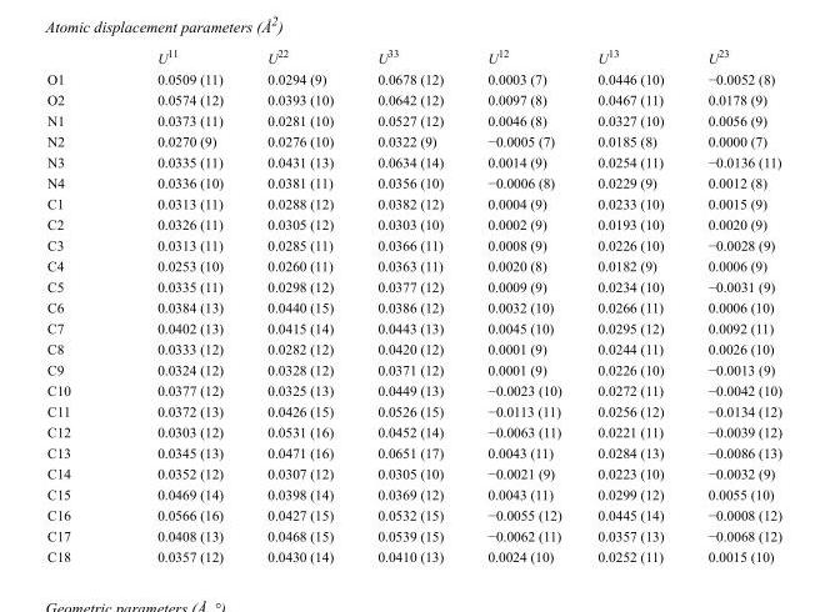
<table><thead><tr><td></td><td>U<sup>11</sup></td><td>U<sup>22</sup></td><td>U<sup>33</sup></td><td>U<sup>12</sup></td><td>U<sup>13</sup></td><td>U<sup>23</sup></td></tr></thead><tbody><tr><td>O1</td><td>0.0509 (11)</td><td>0.0294 (9)</td><td>0.0678 (12)</td><td>0.0003 (7)</td><td>0.0446 (10)</td><td>−0.0052 (8)</td></tr><tr><td>O2</td><td>0.0574 (12)</td><td>0.0393 (10)</td><td>0.0642 (12)</td><td>0.0097 (8)</td><td>0.0467 (11)</td><td>0.0178 (9)</td></tr><tr><td>N1</td><td>0.0373 (11)</td><td>0.0281 (10)</td><td>0.0527 (12)</td><td>0.0046 (8)</td><td>0.0327 (10)</td><td>0.0056 (9)</td></tr><tr><td>N2</td><td>0.0270 (9)</td><td>0.0276 (10)</td><td>0.0322 (9)</td><td>−0.0005 (7)</td><td>0.0185 (8)</td><td>0.0000 (7)</td></tr><tr><td>N3</td><td>0.0335 (11)</td><td>0.0431 (13)</td><td>0.0634 (14)</td><td>0.0014 (9)</td><td>0.0254 (11)</td><td>−0.0136 (11)</td></tr><tr><td>N4</td><td>0.0336 (10)</td><td>0.0381 (11)</td><td>0.0356 (10)</td><td>−0.0006 (8)</td><td>0.0229 (9)</td><td>0.0012 (8)</td></tr><tr><td>C1</td><td>0.0313 (11)</td><td>0.0288 (12)</td><td>0.0382 (12)</td><td>0.0004 (9)</td><td>0.0233 (10)</td><td>0.0015 (9)</td></tr><tr><td>C2</td><td>0.0326 (11)</td><td>0.0305 (12)</td><td>0.0303 (10)</td><td>0.0002 (9)</td><td>0.0193 (10)</td><td>0.0020 (9)</td></tr><tr><td>C3</td><td>0.0313 (11)</td><td>0.0285 (11)</td><td>0.0366 (11)</td><td>0.0008 (9)</td><td>0.0226 (10)</td><td>−0.0028 (9)</td></tr><tr><td>C4</td><td>0.0253 (10)</td><td>0.0260 (11)</td><td>0.0363 (11)</td><td>0.0020 (8)</td><td>0.0182 (9)</td><td>0.0006 (9)</td></tr><tr><td>C5</td><td>0.0335 (11)</td><td>0.0298 (12)</td><td>0.0377 (12)</td><td>0.0009 (9)</td><td>0.0234 (10)</td><td>−0.0031 (9)</td></tr><tr><td>C6</td><td>0.0384 (13)</td><td>0.0440 (15)</td><td>0.0386 (12)</td><td>0.0032 (10)</td><td>0.0266 (11)</td><td>0.0006 (10)</td></tr><tr><td>C7</td><td>0.0402 (13)</td><td>0.0415 (14)</td><td>0.0443 (13)</td><td>0.0045 (10)</td><td>0.0295 (12)</td><td>0.0092 (11)</td></tr><tr><td>C8</td><td>0.0333 (12)</td><td>0.0282 (12)</td><td>0.0420 (12)</td><td>0.0001 (9)</td><td>0.0244 (11)</td><td>0.0026 (10)</td></tr><tr><td>C9</td><td>0.0324 (12)</td><td>0.0328 (12)</td><td>0.0371 (12)</td><td>0.0001 (9)</td><td>0.0226 (10)</td><td>−0.0013 (9)</td></tr><tr><td>C10</td><td>0.0377 (12)</td><td>0.0325 (13)</td><td>0.0449 (13)</td><td>−0.0023 (10)</td><td>0.0272 (11)</td><td>−0.0042 (10)</td></tr><tr><td>C11</td><td>0.0372 (13)</td><td>0.0426 (15)</td><td>0.0526 (15)</td><td>−0.0113 (11)</td><td>0.0256 (12)</td><td>−0.0134 (12)</td></tr><tr><td>C12</td><td>0.0303 (12)</td><td>0.0531 (16)</td><td>0.0452 (14)</td><td>−0.0063 (11)</td><td>0.0221 (11)</td><td>−0.0039 (12)</td></tr><tr><td>C13</td><td>0.0345 (13)</td><td>0.0471 (16)</td><td>0.0651 (17)</td><td>0.0043 (11)</td><td>0.0284 (13)</td><td>−0.0086 (13)</td></tr><tr><td>C14</td><td>0.0352 (12)</td><td>0.0307 (12)</td><td>0.0305 (10)</td><td>−0.0021 (9)</td><td>0.0223 (10)</td><td>−0.0032 (9)</td></tr><tr><td>C15</td><td>0.0469 (14)</td><td>0.0398 (14)</td><td>0.0369 (12)</td><td>0.0043 (11)</td><td>0.0299 (12)</td><td>0.0055 (10)</td></tr><tr><td>C16</td><td>0.0566 (16)</td><td>0.0427 (15)</td><td>0.0532 (15)</td><td>−0.0055 (12)</td><td>0.0445 (14)</td><td>−0.0008 (12)</td></tr><tr><td>C17</td><td>0.0408 (13)</td><td>0.0468 (15)</td><td>0.0539 (15)</td><td>−0.0062 (11)</td><td>0.0357 (13)</td><td>−0.0068 (12)</td></tr><tr><td>C18</td><td>0.0357 (12)</td><td>0.0430 (14)</td><td>0.0410 (13)</td><td>0.0024 (10)</td><td>0.0252 (11)</td><td>0.0015 (10)</td></tr></tbody></table>